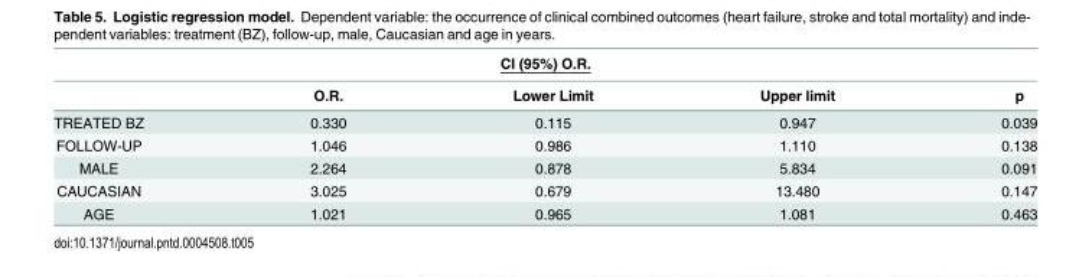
<table><thead><tr><td colspan="5">CI (95%) O.R.</td></tr><tr><td></td><td>O.R.</td><td>Lower Limit</td><td>Upper limit</td><td>p</td></tr></thead><tbody><tr><td>TREATED BZ</td><td>0.330</td><td>0.115</td><td>0.947</td><td>0.039</td></tr><tr><td>FOLLOW-UP</td><td>1.046</td><td>0.986</td><td>1.110</td><td>0.138</td></tr><tr><td>MALE</td><td>2.264</td><td>0.878</td><td>5.834</td><td>0.091</td></tr><tr><td>CAUCASIAN</td><td>3.025</td><td>0.679</td><td>13.480</td><td>0.147</td></tr><tr><td>AGE</td><td>1.021</td><td>0.965</td><td>1.081</td><td>0.463</td></tr></tbody></table>